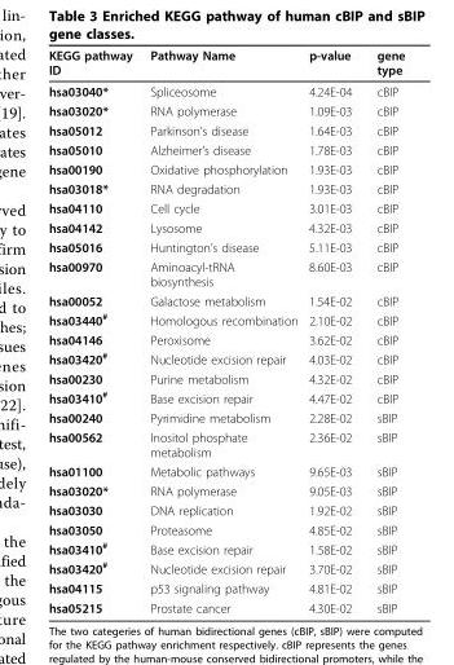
<table><thead><tr><td>KEGG pathway ID</td><td>Pathway Name</td><td>p-value</td><td>gene type</td></tr></thead><tbody><tr><td>hsa03040*</td><td>Spliceosome</td><td>4.24E-04</td><td>cBIP</td></tr><tr><td>hsa03020*</td><td>RNA polymerase</td><td>1.09E-03</td><td>cBIP</td></tr><tr><td>hsa05012</td><td>Parkinson’s disease</td><td>1.64E-03</td><td>cBIP</td></tr><tr><td>hsa05010</td><td>Alzheimer’s disease</td><td>1.78E-03</td><td>cBIP</td></tr><tr><td>hsa00190</td><td>Oxidative phosphorylation</td><td>1.93E-03</td><td>cBIP</td></tr><tr><td>hsa03018*</td><td>RNA degradation</td><td>1.93E-03</td><td>cBIP</td></tr><tr><td>hsa04110</td><td>Cell cycle</td><td>3.01E-03</td><td>cBIP</td></tr><tr><td>hsa04142</td><td>Lysosome</td><td>4.32E-03</td><td>cBIP</td></tr><tr><td>hsa05016</td><td>Huntington’s disease</td><td>5.11E-03</td><td>cBIP</td></tr><tr><td>hsa00970</td><td>Aminoacyl-tRNA biosynthesis</td><td>8.60E-03</td><td>cBIP</td></tr><tr><td>hsa00052</td><td>Galactose metabolism</td><td>1.54E-02</td><td>cBIP</td></tr><tr><td>hsa03440<sup>#</sup></td><td>Homologous recombination</td><td>2.10E-02</td><td>cBIP</td></tr><tr><td>hsa04146</td><td>Peroxisome</td><td>3.62E-02</td><td>cBIP</td></tr><tr><td>hsa03420<sup>#</sup></td><td>Nucleotide excision repair</td><td>4.03E-02</td><td>cBIP</td></tr><tr><td>hsa00230</td><td>Purine metabolism</td><td>4.32E-02</td><td>cBIP</td></tr><tr><td>hsa03410<sup>#</sup></td><td>Base excision repair</td><td>4.47E-02</td><td>cBIP</td></tr><tr><td>hsa00240</td><td>Pyrimidine metabolism</td><td>2.28E-02</td><td>sBIP</td></tr><tr><td>hsa00562</td><td>Inositol phosphate metabolism</td><td>2.36E-02</td><td>sBIP</td></tr><tr><td>hsa01100</td><td>Metabolic pathways</td><td>9.65E-03</td><td>sBIP</td></tr><tr><td>hsa03020*</td><td>RNA polymerase</td><td>9.05E-03</td><td>sBIP</td></tr><tr><td>hsa03030</td><td>DNA replication</td><td>1.92E-02</td><td>sBIP</td></tr><tr><td>hsa03050</td><td>Proteasome</td><td>4.85E-02</td><td>sBIP</td></tr><tr><td>hsa03410<sup>#</sup></td><td>Base excision repair</td><td>1.58E-02</td><td>sBIP</td></tr><tr><td>hsa03420<sup>#</sup></td><td>Nucleotide excision repair</td><td>3.70E-02</td><td>sBIP</td></tr><tr><td>hsa04115</td><td>p53 signaling pathway</td><td>4.81E-02</td><td>sBIP</td></tr><tr><td>hsa05215</td><td>Prostate cancer</td><td>4.30E-02</td><td>sBIP</td></tr></tbody></table>